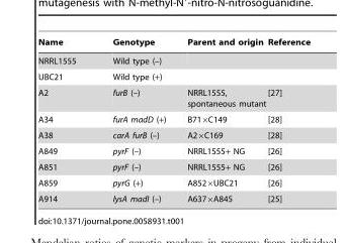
<table><thead><tr><td>Name</td><td>Genotype</td><td>Parent and origin</td><td>Reference</td></tr></thead><tbody><tr><td>NRRL1555</td><td>Wild type (–)</td><td></td><td></td></tr><tr><td>UBC21</td><td>Wild type (+)</td><td></td><td></td></tr><tr><td>A2</td><td>furB (–)</td><td>NRRL1555, spontaneous mutant</td><td>[27]</td></tr><tr><td>A34</td><td>furA madD (+)</td><td>B71×C149</td><td>[28]</td></tr><tr><td>A38</td><td>carA furB (–)</td><td>A2×C169</td><td>[28]</td></tr><tr><td>A849</td><td>pyrF (–)</td><td>NRRL1555+ NG</td><td>[26]</td></tr><tr><td>A851</td><td>pyrF (–)</td><td>NRRL1555+ NG</td><td>[26]</td></tr><tr><td>A859</td><td>pyrG (+)</td><td>A852×UBC21</td><td>[26]</td></tr><tr><td>A914</td><td>lysA madI (–)</td><td>A637×A845</td><td>[25]</td></tr></tbody></table>